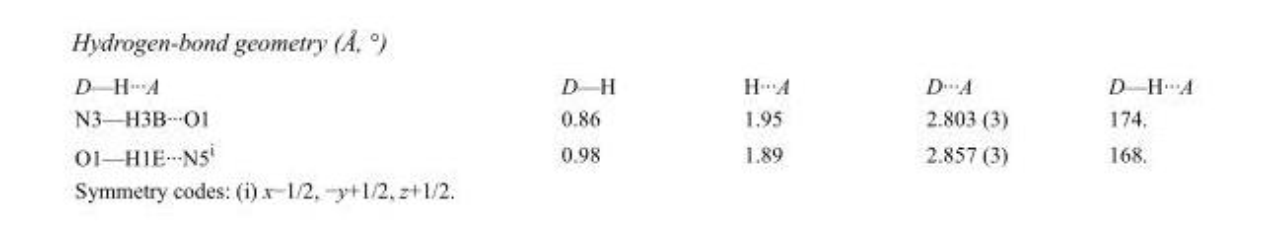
<table><tbody><tr><td>D—H···A</td><td>D—H</td><td>H···A</td><td>D···A</td><td>D—H···A</td></tr><tr><td>N3—H3B···O1</td><td>0.86</td><td>1.95</td><td>2.803 (3)</td><td>174.</td></tr><tr><td>O1—H1E···N5<sup>i</sup></td><td>0.98</td><td>1.89</td><td>2.857 (3)</td><td>168.</td></tr></tbody></table>